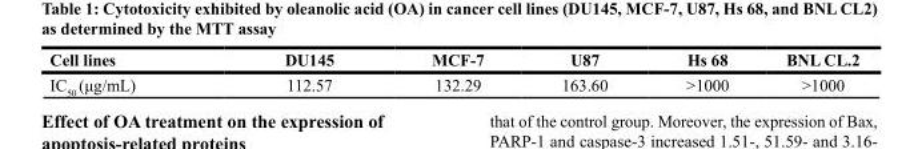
<table><thead><tr><td>Cell lines</td><td>DU145</td><td>MCF-7</td><td>U87</td><td>Hs 68</td><td>BNL CL.2</td></tr></thead><tbody><tr><td>IC<sub>50</sub> (μg/mL)</td><td>112.57</td><td>132.29</td><td>163.60</td><td>&gt;1000</td><td>&gt;1000</td></tr></tbody></table>